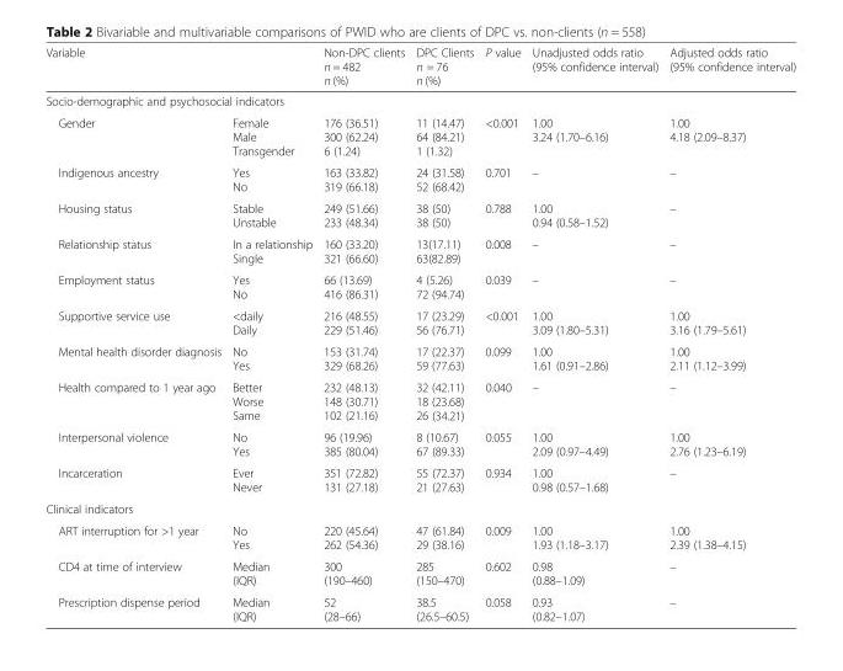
<table><thead><tr><td colspan="2">Variable</td><td>Non-DPC clients n = 482 n (%)</td><td>DPC Clients n = 76 n (%)</td><td>P value</td><td>Unadjusted odds ratio (95% confidence interval)</td><td rowspan="3">Adjusted odds ratio (95% confidence interval) 1.00 4.18 (2.09–8.37)</td></tr><tr><td colspan="6">Socio-demographic and psychosocial indicators</td></tr><tr><td>Gender</td><td>Female Male Transgender</td><td>176 (36.51) 300 (62.24) 6 (1.24)</td><td>11 (14.47) 64 (84.21) 1 (1.32)</td><td>&lt;0.001</td><td>1.00 3.24 (1.70–6.16)</td></tr></thead><tbody><tr><td>Indigenous ancestry</td><td>Yes No</td><td>163 (33.82) 319 (66.18)</td><td>24 (31.58) 52 (68.42)</td><td>0.701</td><td>–</td><td>–</td></tr><tr><td>Housing status</td><td>Stable Unstable</td><td>249 (51.66) 233 (48.34)</td><td>38 (50) 38 (50)</td><td>0.788</td><td>1.00 0.94 (0.58–1.52)</td><td>–</td></tr><tr><td>Relationship status</td><td>In a relationship Single</td><td>160 (33.20) 321 (66.60)</td><td>13(17.11) 63(82.89)</td><td>0.008</td><td>–</td><td>–</td></tr><tr><td>Employment status</td><td>Yes No</td><td>66 (13.69) 416 (86.31)</td><td>4 (5.26) 72 (94.74)</td><td>0.039</td><td>–</td><td>–</td></tr><tr><td>Supportive service use</td><td>&lt;daily Daily</td><td>216 (48.55) 229 (51.46)</td><td>17 (23.29) 56 (76.71)</td><td>&lt;0.001</td><td>1.00 3.09 (1.80–5.31)</td><td>1.00 3.16 (1.79–5.61)</td></tr><tr><td>Mental health disorder diagnosis</td><td>No Yes</td><td>153 (31.74) 329 (68.26)</td><td>17 (22.37) 59 (77.63)</td><td>0.099</td><td>1.00 1.61 (0.91–2.86)</td><td>1.00 2.11 (1.12–3.99)</td></tr><tr><td>Health compared to 1 year ago</td><td>Better Worse Same</td><td>232 (48.13) 148 (30.71) 102 (21.16)</td><td>32 (42.11) 18 (23.68) 26 (34.21)</td><td>0.040</td><td>–</td><td>–</td></tr><tr><td>Interpersonal violence</td><td>No Yes</td><td>96 (19.96) 385 (80.04)</td><td>8 (10.67) 67 (89.33)</td><td>0.055</td><td>1.00 2.09 (0.97–4.49)</td><td>1.00 2.76 (1.23–6.19)</td></tr><tr><td>Incarceration</td><td>Ever Never</td><td>351 (72.82) 131 (27.18)</td><td>55 (72.37) 21 (27.63)</td><td>0.934</td><td>1.00 0.98 (0.57–1.68)</td><td>–</td></tr><tr><td colspan="7">Clinical indicators</td></tr><tr><td>ART interruption for &gt;1 year</td><td>No Yes</td><td>220 (45.64) 262 (54.36)</td><td>47 (61.84) 29 (38.16)</td><td>0.009</td><td>1.00 1.93 (1.18–3.17)</td><td>1.00 2.39 (1.38–4.15)</td></tr><tr><td>CD4 at time of interview</td><td>Median (IQR)</td><td>300 (190–460)</td><td>285 (150–470)</td><td>0.602</td><td>0.98 (0.88–1.09)</td><td>–</td></tr><tr><td>Prescription dispense period</td><td>Median (IQR)</td><td>52 (28–66)</td><td>38.5 (26.5–60.5)</td><td>0.058</td><td>0.93 (0.82–1.07)</td><td>–</td></tr></tbody></table>